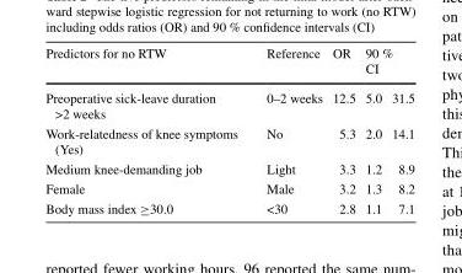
<table><thead><tr><td rowspan="2">Predictors for no RTW Preoperative sick-leave duration &gt;2 weeks</td><td rowspan="2">Reference 0–2 weeks</td><td rowspan="2">OR 12.5</td><td colspan="2">90 % CI</td></tr><tr><td>5.0</td><td>31.5</td></tr></thead><tbody><tr><td>Work-relatedness of knee symptoms (Yes)</td><td>No</td><td>5.3</td><td>2.0</td><td>14.1</td></tr><tr><td>Medium knee-demanding job</td><td>Light</td><td>3.3</td><td>1.2</td><td>8.9</td></tr><tr><td>Female</td><td>Male</td><td>3.2</td><td>1.3</td><td>8.2</td></tr><tr><td>Body mass index ≥30.0</td><td>&lt;30</td><td>2.8</td><td>1.1</td><td>7.1</td></tr></tbody></table>